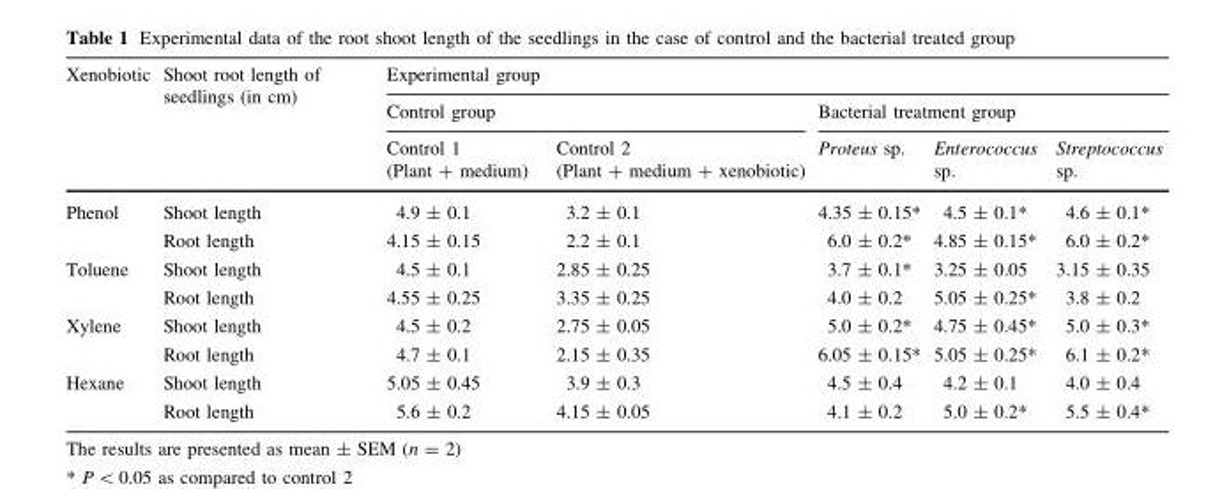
<table><thead><tr><td rowspan="3">Xenobiotic</td><td rowspan="3">Shoot root length of seedlings (in cm)</td><td colspan="5">Experimental group</td></tr><tr><td colspan="2">Control group</td><td colspan="3">Bacterial treatment group</td></tr><tr><td>Control 1 (Plant + medium)</td><td>Control 2 (Plant + medium + xenobiotic)</td><td>Proteus sp.</td><td>Enterococcus sp.</td><td>Streptococcus sp.</td></tr></thead><tbody><tr><td rowspan="2">Phenol</td><td>Shoot length</td><td>4.9 ± 0.1</td><td>3.2 ± 0.1</td><td>4.35 ± 0.15*</td><td>4.5 ± 0.1*</td><td>4.6 ± 0.1*</td></tr><tr><td>Root length</td><td>4.15 ± 0.15</td><td>2.2 ± 0.1</td><td>6.0 ± 0.2*</td><td>4.85 ± 0.15*</td><td>6.0 ± 0.2*</td></tr><tr><td rowspan="2">Toluene</td><td>Shoot length</td><td>4.5 ± 0.1</td><td>2.85 ± 0.25</td><td>3.7 ± 0.1*</td><td>3.25 ± 0.05</td><td>3.15 ± 0.35</td></tr><tr><td>Root length</td><td>4.55 ± 0.25</td><td>3.35 ± 0.25</td><td>4.0 ± 0.2</td><td>5.05 ± 0.25*</td><td>3.8 ± 0.2</td></tr><tr><td rowspan="2">Xylene</td><td>Shoot length</td><td>4.5 ± 0.2</td><td>2.75 ± 0.05</td><td>5.0 ± 0.2*</td><td>4.75 ± 0.45*</td><td>5.0 ± 0.3*</td></tr><tr><td>Root length</td><td>4.7 ± 0.1</td><td>2.15 ± 0.35</td><td>6.05 ± 0.15*</td><td>5.05 ± 0.25*</td><td>6.1 ± 0.2*</td></tr><tr><td rowspan="2">Hexane</td><td>Shoot length</td><td>5.05 ± 0.45</td><td>3.9 ± 0.3</td><td>4.5 ± 0.4</td><td>4.2 ± 0.1</td><td>4.0 ± 0.4</td></tr><tr><td>Root length</td><td>5.6 ± 0.2</td><td>4.15 ± 0.05</td><td>4.1 ± 0.2</td><td>5.0 ± 0.2*</td><td>5.5 ± 0.4*</td></tr></tbody></table>